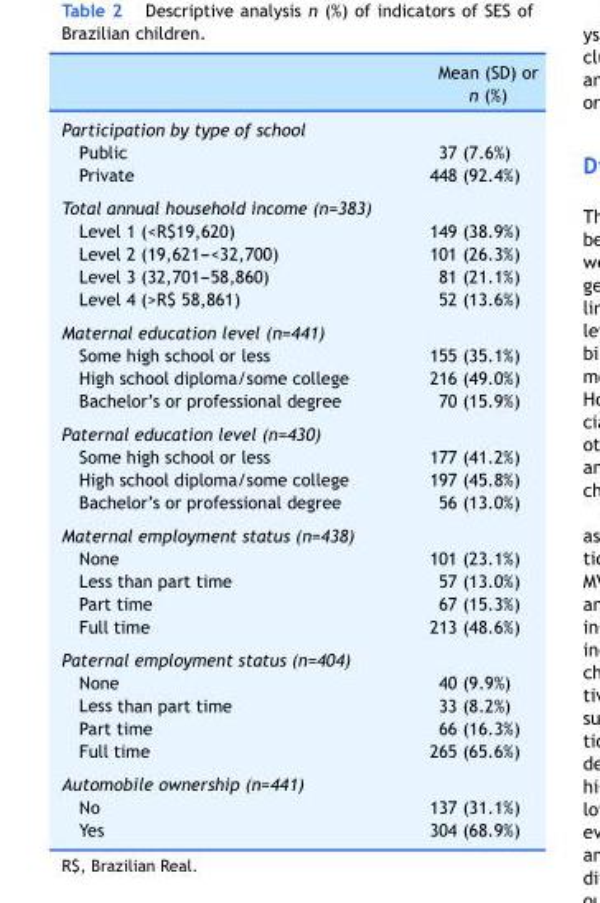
<table><thead><tr><td></td><td>Mean (SD) or n (%)</td></tr></thead><tbody><tr><td colspan="2">Participation by type of school</td></tr><tr><td>Public</td><td>37 (7.6%)</td></tr><tr><td>Private</td><td>448 (92.4%)</td></tr><tr><td colspan="2">Total annual household income (n=383)</td></tr><tr><td>Level 1 (&lt;R$19,620)</td><td>149 (38.9%)</td></tr><tr><td>Level 2 (19,621---&lt;32,700)</td><td>101 (26.3%)</td></tr><tr><td>Level 3 (32,701---58,860)</td><td>81 (21.1%)</td></tr><tr><td>Level 4 (&gt;R$ 58,861)</td><td>52 (13.6%)</td></tr><tr><td colspan="2">Maternal education level (n=441)</td></tr><tr><td>Some high school or less</td><td>155 (35.1%)</td></tr><tr><td>High school diploma/some college</td><td>216 (49.0%)</td></tr><tr><td>Bachelor’s or professional degree</td><td>70 (15.9%)</td></tr><tr><td colspan="2">Paternal education level (n=430)</td></tr><tr><td>Some high school or less</td><td>177 (41.2%)</td></tr><tr><td>High school diploma/some college</td><td>197 (45.8%)</td></tr><tr><td>Bachelor’s or professional degree</td><td>56 (13.0%)</td></tr><tr><td colspan="2">Maternal employment status (n=438)</td></tr><tr><td>None</td><td>101 (23.1%)</td></tr><tr><td>Less than part time</td><td>57 (13.0%)</td></tr><tr><td>Part time</td><td>67 (15.3%)</td></tr><tr><td>Full time</td><td>213 (48.6%)</td></tr><tr><td colspan="2">Paternal employment status (n=404)</td></tr><tr><td>None</td><td>40 (9.9%)</td></tr><tr><td>Less than part time</td><td>33 (8.2%)</td></tr><tr><td>Part time</td><td>66 (16.3%)</td></tr><tr><td>Full time</td><td>265 (65.6%)</td></tr><tr><td colspan="2">Automobile ownership (n=441)</td></tr><tr><td>No</td><td>137 (31.1%)</td></tr><tr><td>Yes</td><td>304 (68.9%)</td></tr></tbody></table>